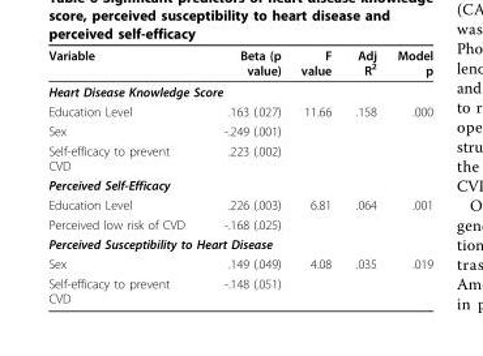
<table><thead><tr><td>Variable</td><td>Beta (p value)</td><td>F value</td><td>Adj R<sup>2</sup></td><td>Model p</td></tr></thead><tbody><tr><td colspan="5">Heart Disease Knowledge Score</td></tr><tr><td>Education Level</td><td>.163 (.027)</td><td>11.66</td><td>.158</td><td>.000</td></tr><tr><td>Sex</td><td>-.249 (.001)</td><td></td><td></td><td></td></tr><tr><td>Self-efficacy to prevent CVD</td><td>.223 (.002)</td><td></td><td></td><td></td></tr><tr><td colspan="5">Perceived Self-Efficacy</td></tr><tr><td>Education Level</td><td>.226 (.003)</td><td>6.81</td><td>.064</td><td>.001</td></tr><tr><td>Perceived low risk of CVD</td><td>-.168 (.025)</td><td></td><td></td><td></td></tr><tr><td colspan="5">Perceived Susceptibility to Heart Disease</td></tr><tr><td>Sex</td><td>.149 (.049)</td><td>4.08</td><td>.035</td><td>.019</td></tr><tr><td>Self-efficacy to prevent CVD</td><td>-.148 (.051)</td><td></td><td></td><td></td></tr></tbody></table>